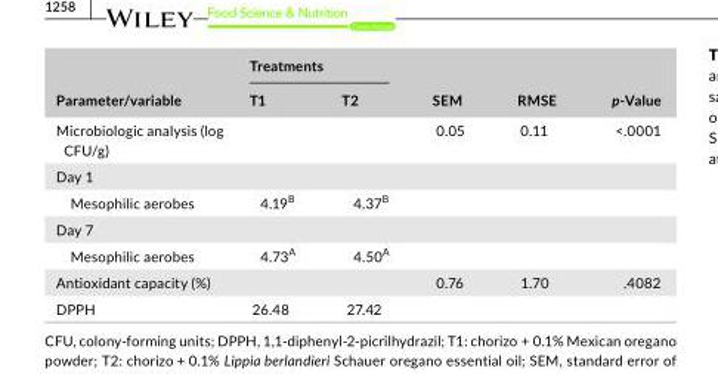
<table><thead><tr><td rowspan="2">Parameter/variable</td><td colspan="2">Treatments</td><td rowspan="2">SEM</td><td rowspan="2">RMSE</td><td rowspan="2">p- Value</td></tr><tr><td>T1</td><td>T2</td></tr></thead><tbody><tr><td>Microbiologic analysis (log CFU/g)</td><td></td><td></td><td>0.05</td><td>0.11</td><td>&lt;.0001</td></tr><tr><td colspan="6">Day 1</td></tr><tr><td>Mesophilic aerobes</td><td>4.19<sup>B</sup></td><td>4.37<sup>B</sup></td><td></td><td></td><td></td></tr><tr><td colspan="6">Day 7</td></tr><tr><td>Mesophilic aerobes</td><td>4.73<sup>A</sup></td><td>4.50<sup>A</sup></td><td></td><td></td><td></td></tr><tr><td>Antioxidant capacity (%)</td><td></td><td></td><td>0.76</td><td>1.70</td><td>.4082</td></tr><tr><td>DPPH</td><td>26.48</td><td>27.42</td><td></td><td></td><td></td></tr></tbody></table>